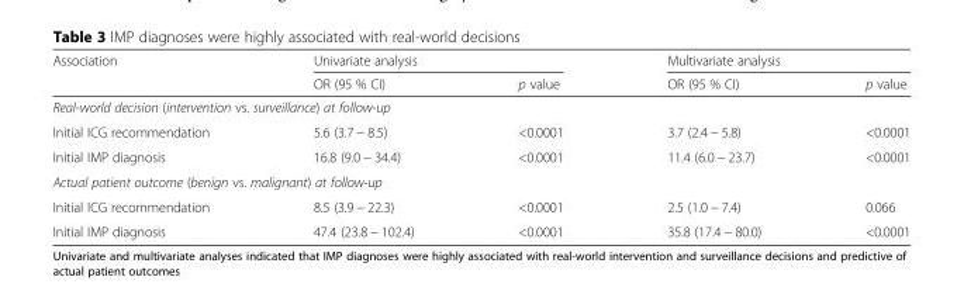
<table><thead><tr><td rowspan="2">Association</td><td colspan="2">Univariate analysis</td><td colspan="2">Multivariate analysis</td></tr><tr><td>OR (95 % CI)</td><td>p value</td><td>OR (95 % CI)</td><td>p value</td></tr></thead><tbody><tr><td colspan="5">Real-world decision (intervention vs. surveillance) at follow-up</td></tr><tr><td>Initial ICG recommendation</td><td>5.6 (3.7 − 8.5)</td><td>&lt;0.0001</td><td>3.7 (2.4 − 5.8)</td><td>&lt;0.0001</td></tr><tr><td>Initial IMP diagnosis</td><td>16.8 (9.0 − 34.4)</td><td>&lt;0.0001</td><td>11.4 (6.0 − 23.7)</td><td>&lt;0.0001</td></tr><tr><td colspan="5">Actual patient outcome (benign vs. malignant) at follow-up</td></tr><tr><td>Initial ICG recommendation</td><td>8.5 (3.9 − 22.3)</td><td>&lt;0.0001</td><td>2.5 (1.0 − 7.4)</td><td>0.066</td></tr><tr><td>Initial IMP diagnosis</td><td>47.4 (23.8 − 102.4)</td><td>&lt;0.0001</td><td>35.8 (17.4 − 80.0)</td><td>&lt;0.0001</td></tr></tbody></table>